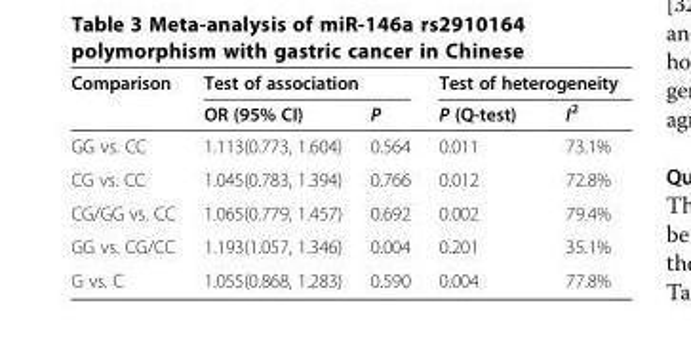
<table><thead><tr><td rowspan="2">Comparison</td><td colspan="2">Test of association</td><td colspan="2">Test of heterogeneity</td></tr><tr><td>OR (95% CI)</td><td>P</td><td>P (Q-test)</td><td>I<sup>2</sup></td></tr></thead><tbody><tr><td>GG vs. CC</td><td>1.113(0.773, 1.604)</td><td>0.564</td><td>0.011</td><td>73.1%</td></tr><tr><td>CG vs. CC</td><td>1.045(0.783, 1.394)</td><td>0.766</td><td>0.012</td><td>72.8%</td></tr><tr><td>CG/GG vs. CC</td><td>1.065(0.779, 1.457)</td><td>0.692</td><td>0.002</td><td>79.4%</td></tr><tr><td>GG vs. CG/CC</td><td>1.193(1.057, 1.346)</td><td>0.004</td><td>0.201</td><td>35.1%</td></tr><tr><td>G vs. C</td><td>1.055(0.868, 1.283)</td><td>0.590</td><td>0.004</td><td>77.8%</td></tr></tbody></table>